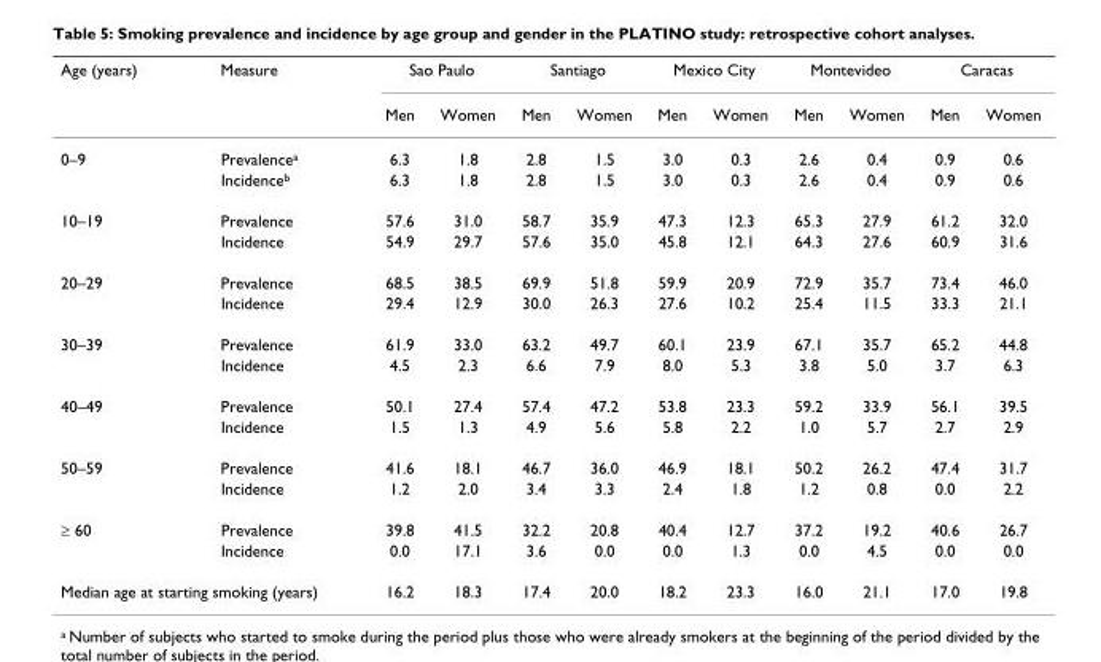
<table><thead><tr><td rowspan="2">Age (years)</td><td rowspan="2">Measure</td><td colspan="2">Sao Paulo</td><td colspan="2">Santiago</td><td colspan="2">Mexico City</td><td colspan="2">Montevideo</td><td colspan="2">Caracas</td></tr><tr><td>Men</td><td>Women</td><td>Men</td><td>Women</td><td>Men</td><td>Women</td><td>Men</td><td>Women</td><td>Men</td><td>Women</td></tr></thead><tbody><tr><td rowspan="2">0–9</td><td>Prevalence<sup>a</sup></td><td>6.3</td><td>1.8</td><td>2.8</td><td>1.5</td><td>3.0</td><td>0.3</td><td>2.6</td><td>0.4</td><td>0.9</td><td>0.6</td></tr><tr><td>Incidence<sup>b</sup></td><td>6.3</td><td>1.8</td><td>2.8</td><td>1.5</td><td>3.0</td><td>0.3</td><td>2.6</td><td>0.4</td><td>0.9</td><td>0.6</td></tr><tr><td rowspan="2">10–19</td><td>Prevalence</td><td>57.6</td><td>31.0</td><td>58.7</td><td>35.9</td><td>47.3</td><td>12.3</td><td>65.3</td><td>27.9</td><td>61.2</td><td>32.0</td></tr><tr><td>Incidence</td><td>54.9</td><td>29.7</td><td>57.6</td><td>35.0</td><td>45.8</td><td>12.1</td><td>64.3</td><td>27.6</td><td>60.9</td><td>31.6</td></tr><tr><td rowspan="2">20–29</td><td>Prevalence</td><td>68.5</td><td>38.5</td><td>69.9</td><td>51.8</td><td>59.9</td><td>20.9</td><td>72.9</td><td>35.7</td><td>73.4</td><td>46.0</td></tr><tr><td>Incidence</td><td>29.4</td><td>12.9</td><td>30.0</td><td>26.3</td><td>27.6</td><td>10.2</td><td>25.4</td><td>11.5</td><td>33.3</td><td>21.1</td></tr><tr><td rowspan="2">30–39</td><td>Prevalence</td><td>61.9</td><td>33.0</td><td>63.2</td><td>49.7</td><td>60.1</td><td>23.9</td><td>67.1</td><td>35.7</td><td>65.2</td><td>44.8</td></tr><tr><td>Incidence</td><td>4.5</td><td>2.3</td><td>6.6</td><td>7.9</td><td>8.0</td><td>5.3</td><td>3.8</td><td>5.0</td><td>3.7</td><td>6.3</td></tr><tr><td rowspan="2">40–49</td><td>Prevalence</td><td>50.1</td><td>27.4</td><td>57.4</td><td>47.2</td><td>53.8</td><td>23.3</td><td>59.2</td><td>33.9</td><td>56.1</td><td>39.5</td></tr><tr><td>Incidence</td><td>1.5</td><td>1.3</td><td>4.9</td><td>5.6</td><td>5.8</td><td>2.2</td><td>1.0</td><td>5.7</td><td>2.7</td><td>2.9</td></tr><tr><td rowspan="2">50–59</td><td>Prevalence</td><td>41.6</td><td>18.1</td><td>46.7</td><td>36.0</td><td>46.9</td><td>18.1</td><td>50.2</td><td>26.2</td><td>47.4</td><td>31.7</td></tr><tr><td>Incidence</td><td>1.2</td><td>2.0</td><td>3.4</td><td>3.3</td><td>2.4</td><td>1.8</td><td>1.2</td><td>0.8</td><td>0.0</td><td>2.2</td></tr><tr><td rowspan="2">≥ 60</td><td>Prevalence</td><td>39.8</td><td>41.5</td><td>32.2</td><td>20.8</td><td>40.4</td><td>12.7</td><td>37.2</td><td>19.2</td><td>40.6</td><td>26.7</td></tr><tr><td>Incidence</td><td>0.0</td><td>17.1</td><td>3.6</td><td>0.0</td><td>0.0</td><td>1.3</td><td>0.0</td><td>4.5</td><td>0.0</td><td>0.0</td></tr><tr><td colspan="2">Median age at starting smoking (years)</td><td>16.2</td><td>18.3</td><td>17.4</td><td>20.0</td><td>18.2</td><td>23.3</td><td>16.0</td><td>21.1</td><td>17.0</td><td>19.8</td></tr></tbody></table>